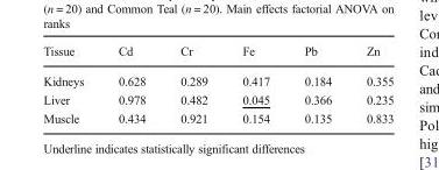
<table><thead><tr><td>Tissue</td><td>Cd</td><td>Cr</td><td>Fe</td><td>Pb</td><td>Zn</td></tr></thead><tbody><tr><td>Kidneys</td><td>0.628</td><td>0.289</td><td>0.417</td><td>0.184</td><td>0.355</td></tr><tr><td>Liver</td><td>0.978</td><td>0.482</td><td>0.045</td><td>0.366</td><td>0.235</td></tr><tr><td>Muscle</td><td>0.434</td><td>0.921</td><td>0.154</td><td>0.135</td><td>0.833</td></tr></tbody></table>